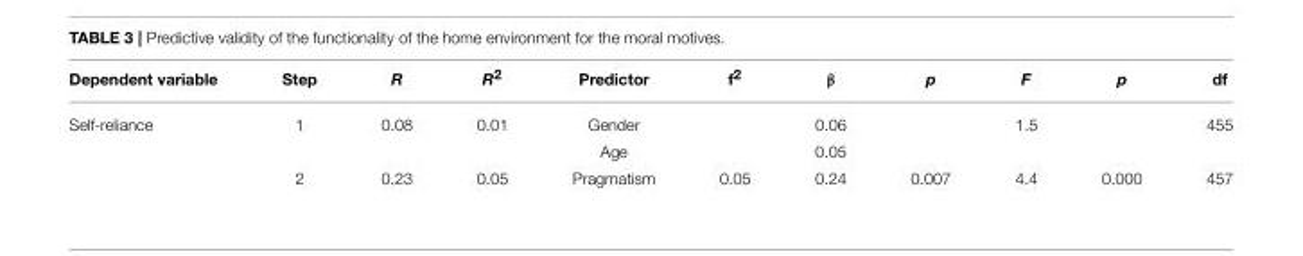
<table><thead><tr><td>Dependent variable</td><td>Step</td><td>R</td><td>R<sup>2</sup></td><td>Predictor</td><td>f<sup>2</sup></td><td>β</td><td>p</td><td>F</td><td>p</td><td>df</td></tr></thead><tbody><tr><td rowspan="3">Self-reliance</td><td>1</td><td>0.08</td><td>0.01</td><td>Gender</td><td></td><td>0.06</td><td></td><td>1.5</td><td></td><td>455</td></tr><tr><td></td><td></td><td></td><td>Age</td><td></td><td>0.05</td><td></td><td></td><td></td><td></td></tr><tr><td>2</td><td>0.23</td><td>0.05</td><td>Pragmatism</td><td>0.05</td><td>0.24</td><td>0.007</td><td>4.4</td><td>0.000</td><td>457</td></tr></tbody></table>